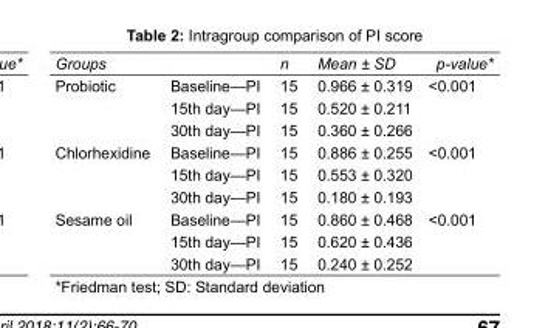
<table><tbody><tr><td>Groups</td><td></td><td>n</td><td>Mean ± SD</td><td>p-value*</td></tr><tr><td rowspan="3">Probiotic</td><td>Baseline—PI</td><td>15</td><td>0.966 ± 0.319</td><td>&lt;0.001</td></tr><tr><td>15th day—PI</td><td>15</td><td>0.520 ± 0.211</td><td></td></tr><tr><td>30th day—PI</td><td>15</td><td>0.360 ± 0.266</td><td></td></tr><tr><td rowspan="3">Chlorhexidine</td><td>Baseline—PI</td><td>15</td><td>0.886 ± 0.255</td><td>&lt;0.001</td></tr><tr><td>15th day—PI</td><td>15</td><td>0.553 ± 0.320</td><td></td></tr><tr><td>30th day—PI</td><td>15</td><td>0.180 ± 0.193</td><td></td></tr><tr><td rowspan="3">Sesame oil</td><td>Baseline—PI</td><td>15</td><td>0.860 ± 0.468</td><td>&lt;0.001</td></tr><tr><td>15th day—PI</td><td>15</td><td>0.620 ± 0.436</td><td></td></tr><tr><td>30th day—PI</td><td>15</td><td>0.240 ± 0.252</td><td></td></tr></tbody></table>